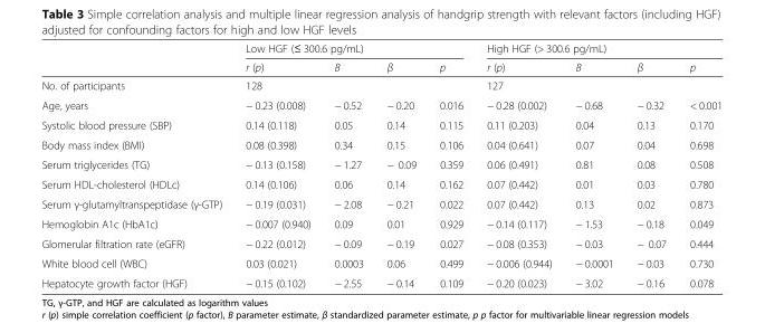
<table><thead><tr><td rowspan="2"></td><td colspan="4">Low HGF (≤ 300.6 pg/mL)</td><td colspan="4">High HGF (&gt; 300.6 pg/mL)</td></tr><tr><td>r (p)</td><td>Β</td><td>β</td><td>p</td><td>r (p)</td><td>Β</td><td>β</td><td>p</td></tr></thead><tbody><tr><td>No. of participants</td><td colspan="4">128</td><td colspan="4">127</td></tr><tr><td>Age, years</td><td>− 0.23 (0.008)</td><td>− 0.52</td><td>− 0.20</td><td>0.016</td><td>− 0.28 (0.002)</td><td>− 0.68</td><td>− 0.32</td><td>&lt; 0.001</td></tr><tr><td>Systolic blood pressure (SBP)</td><td>0.14 (0.118)</td><td>0.05</td><td>0.14</td><td>0.115</td><td>0.11 (0.203)</td><td>0.04</td><td>0.13</td><td>0.170</td></tr><tr><td>Body mass index (BMI)</td><td>0.08 (0.398)</td><td>0.34</td><td>0.15</td><td>0.106</td><td>0.04 (0.641)</td><td>0.07</td><td>0.04</td><td>0.698</td></tr><tr><td>Serum triglycerides (TG)</td><td>− 0.13 (0.158)</td><td>− 1.27</td><td>− 0.09</td><td>0.359</td><td>0.06 (0.491)</td><td>0.81</td><td>0.08</td><td>0.508</td></tr><tr><td>Serum HDL-cholesterol (HDLc)</td><td>0.14 (0.106)</td><td>0.06</td><td>0.14</td><td>0.162</td><td>0.07 (0.442)</td><td>0.01</td><td>0.03</td><td>0.780</td></tr><tr><td>Serum γ-glutamyltranspeptidase (γ-GTP)</td><td>− 0.19 (0.031)</td><td>− 2.08</td><td>− 0.21</td><td>0.022</td><td>0.07 (0.442)</td><td>0.13</td><td>0.02</td><td>0.873</td></tr><tr><td>Hemoglobin A1c (HbA1c)</td><td>− 0.007 (0.940)</td><td>0.09</td><td>0.01</td><td>0.929</td><td>− 0.14 (0.117)</td><td>− 1.53</td><td>− 0.18</td><td>0.049</td></tr><tr><td>Glomerular filtration rate (eGFR)</td><td>− 0.22 (0.012)</td><td>− 0.09</td><td>− 0.19</td><td>0.027</td><td>− 0.08 (0.353)</td><td>− 0.03</td><td>− 0.07</td><td>0.444</td></tr><tr><td>White blood cell (WBC)</td><td>0.03 (0.021)</td><td>0.0003</td><td>0.06</td><td>0.499</td><td>− 0.006 (0.944)</td><td>− 0.0001</td><td>− 0.03</td><td>0.730</td></tr><tr><td>Hepatocyte growth factor (HGF)</td><td>− 0.15 (0.102)</td><td>− 2.55</td><td>− 0.14</td><td>0.109</td><td>− 0.20 (0.023)</td><td>− 3.02</td><td>− 0.16</td><td>0.078</td></tr></tbody></table>